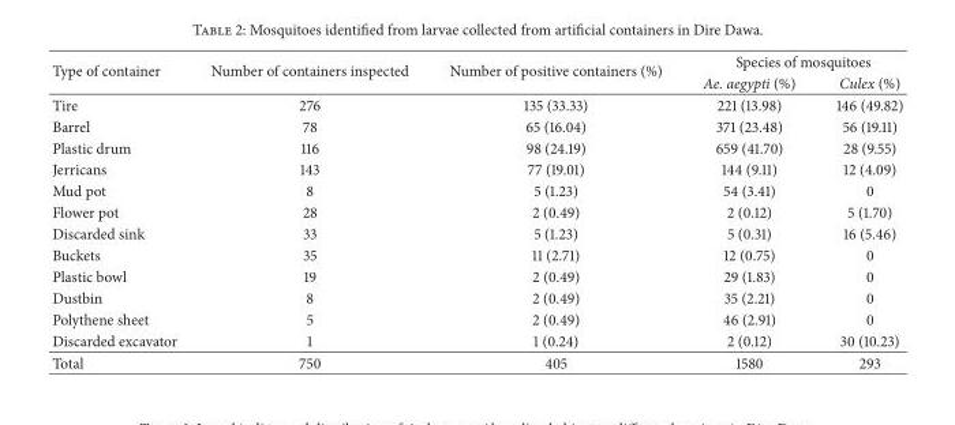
<table><thead><tr><td rowspan="2">Type of container</td><td rowspan="2">Number of containers inspected</td><td rowspan="2">Number of positive containers (%)</td><td colspan="2">Species of mosquitoes</td></tr><tr><td>Ae. aegypti (%)</td><td>Culex (%)</td></tr></thead><tbody><tr><td>Tire</td><td>276</td><td>135 (33.33)</td><td>221 (13.98)</td><td>146 (49.82)</td></tr><tr><td>Barrel</td><td>78</td><td>65 (16.04)</td><td>371 (23.48)</td><td>56 (19.11)</td></tr><tr><td>Plastic drum</td><td>116</td><td>98 (24.19)</td><td>659 (41.70)</td><td>28 (9.55)</td></tr><tr><td>Jerricans</td><td>143</td><td>77 (19.01)</td><td>144 (9.11)</td><td>12 (4.09)</td></tr><tr><td>Mud pot</td><td>8</td><td>5 (1.23)</td><td>54 (3.41)</td><td>0</td></tr><tr><td>Flower pot</td><td>28</td><td>2 (0.49)</td><td>2 (0.12)</td><td>5 (1.70)</td></tr><tr><td>Discarded sink</td><td>33</td><td>5 (1.23)</td><td>5 (0.31)</td><td>16 (5.46)</td></tr><tr><td>Buckets</td><td>35</td><td>11 (2.71)</td><td>12 (0.75)</td><td>0</td></tr><tr><td>Plastic bowl</td><td>19</td><td>2 (0.49)</td><td>29 (1.83)</td><td>0</td></tr><tr><td>Dustbin</td><td>8</td><td>2 (0.49)</td><td>35 (2.21)</td><td>0</td></tr><tr><td>Polythene sheet</td><td>5</td><td>2 (0.49)</td><td>46 (2.91)</td><td>0</td></tr><tr><td>Discarded excavator</td><td>1</td><td>1 (0.24)</td><td>2 (0.12)</td><td>30 (10.23)</td></tr><tr><td>Total</td><td>750</td><td>405</td><td>1580</td><td>293</td></tr></tbody></table>